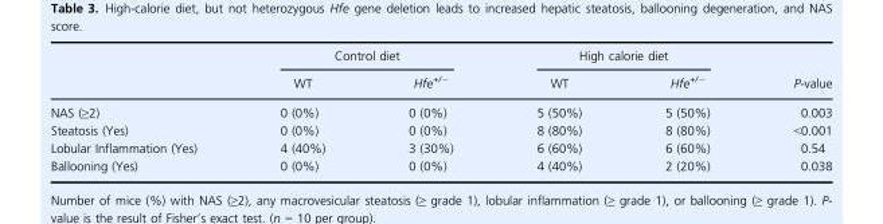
<table><thead><tr><td rowspan="2"></td><td colspan="2">Control diet</td><td colspan="2">High calorie diet</td><td rowspan="2">P-value</td></tr><tr><td>WT</td><td>Hfe<sup>+/−</sup></td><td>WT</td><td>Hfe<sup>+/−</sup></td></tr></thead><tbody><tr><td>NAS (≥2)</td><td>0 (0%)</td><td>0 (0%)</td><td>5 (50%)</td><td>5 (50%)</td><td>0.003</td></tr><tr><td>Steatosis (Yes)</td><td>0 (0%)</td><td>0 (0%)</td><td>8 (80%)</td><td>8 (80%)</td><td>&lt;0.001</td></tr><tr><td>Lobular Inflammation (Yes)</td><td>4 (40%)</td><td>3 (30%)</td><td>6 (60%)</td><td>6 (60%)</td><td>0.54</td></tr><tr><td>Ballooning (Yes)</td><td>0 (0%)</td><td>0 (0%)</td><td>4 (40%)</td><td>2 (20%)</td><td>0.038</td></tr></tbody></table>